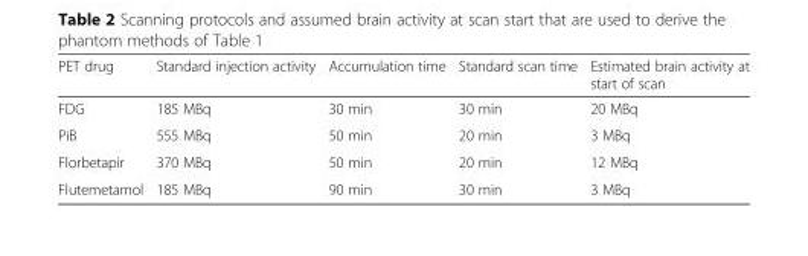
<table><thead><tr><td>PET drug</td><td>Standard injection activity</td><td>Accumulation time</td><td>Standard scan time</td><td>Estimated brain activity at start of scan</td></tr></thead><tbody><tr><td>FDG</td><td>185 MBq</td><td>30 min</td><td>30 min</td><td>20 MBq</td></tr><tr><td>PiB</td><td>555 MBq</td><td>50 min</td><td>20 min</td><td>3 MBq</td></tr><tr><td>Florbetapir</td><td>370 MBq</td><td>50 min</td><td>20 min</td><td>12 MBq</td></tr><tr><td>Flutemetamol</td><td>185 MBq</td><td>90 min</td><td>30 min</td><td>3 MBq</td></tr></tbody></table>